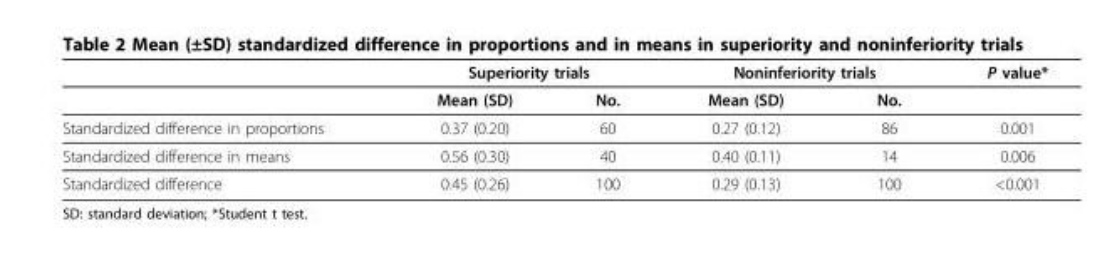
<table><thead><tr><td rowspan="2"></td><td colspan="2">Superiority trials</td><td colspan="2">Noninferiority trials</td><td rowspan="2">P value*</td></tr><tr><td>Mean (SD)</td><td>No.</td><td>Mean (SD)</td><td>No.</td></tr></thead><tbody><tr><td>Standardized difference in proportions</td><td>0.37 (0.20)</td><td>60</td><td>0.27 (0.12)</td><td>86</td><td>0.001</td></tr><tr><td>Standardized difference in means</td><td>0.56 (0.30)</td><td>40</td><td>0.40 (0.11)</td><td>14</td><td>0.006</td></tr><tr><td>Standardized difference</td><td>0.45 (0.26)</td><td>100</td><td>0.29 (0.13)</td><td>100</td><td>&lt;0.001</td></tr></tbody></table>